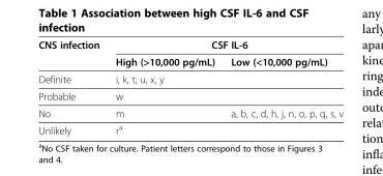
<table><thead><tr><td rowspan="2">CNS infection</td><td colspan="2">CSF IL-6</td></tr><tr><td>High (&gt;10,000 pg/mL)</td><td>Low (&lt;10,000 pg/mL)</td></tr></thead><tbody><tr><td>Definite</td><td>i, k, t, u, x, y</td><td></td></tr><tr><td>Probable</td><td>w</td><td></td></tr><tr><td>No</td><td>m</td><td>a, b, c, d, h, j, n, o, p, q, s, v</td></tr><tr><td>Unlikely</td><td>r<sup>a</sup></td><td></td></tr></tbody></table>